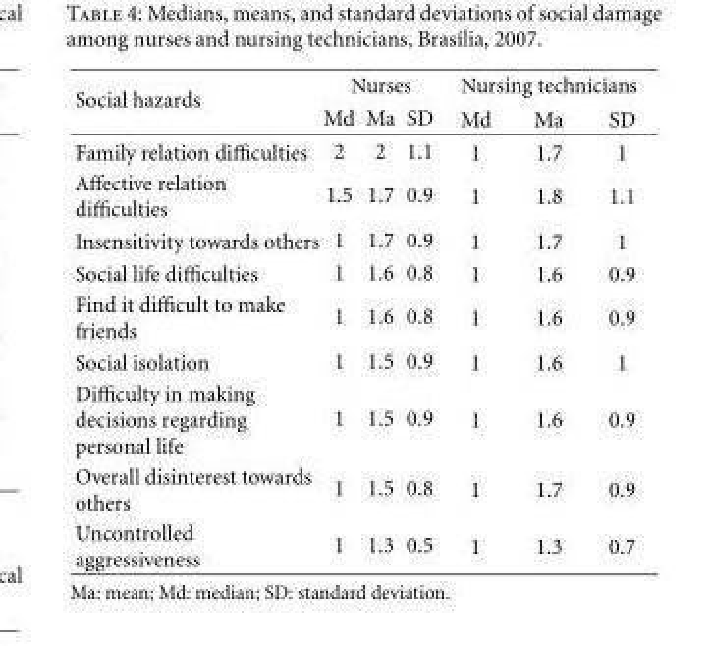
<table><thead><tr><td rowspan="2">Social hazards</td><td colspan="3">Nurses</td><td colspan="3">Nursing technicians</td></tr><tr><td>Md</td><td>Ma</td><td>SD</td><td>Md</td><td>Ma</td><td>SD</td></tr></thead><tbody><tr><td>Family relation difficulties</td><td>2</td><td>2</td><td>1.1</td><td>1</td><td>1.7</td><td>1</td></tr><tr><td>Affective relation difficulties</td><td>1.5</td><td>1.7</td><td>0.9</td><td>1</td><td>1.8</td><td>1.1</td></tr><tr><td>Insensitivity towards others</td><td>1</td><td>1.7</td><td>0.9</td><td>1</td><td>1.7</td><td>1</td></tr><tr><td>Social life difficulties</td><td>1</td><td>1.6</td><td>0.8</td><td>1</td><td>1.6</td><td>0.9</td></tr><tr><td>Find it difficult to make friends</td><td>1</td><td>1.6</td><td>0.8</td><td>1</td><td>1.6</td><td>0.9</td></tr><tr><td>Social isolation</td><td>1</td><td>1.5</td><td>0.9</td><td>1</td><td>1.6</td><td>1</td></tr><tr><td>Difficulty in making decisions regarding personal life</td><td>1</td><td>1.5</td><td>0.9</td><td>1</td><td>1.6</td><td>0.9</td></tr><tr><td>Overall disinterest towards others</td><td>1</td><td>1.5</td><td>0.8</td><td>1</td><td>1.7</td><td>0.9</td></tr><tr><td>Uncontrolled aggressiveness</td><td>1</td><td>1.3</td><td>0.5</td><td>1</td><td>1.3</td><td>0.7</td></tr></tbody></table>